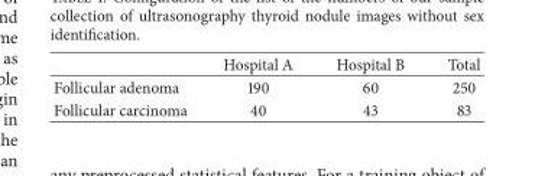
<table><thead><tr><td></td><td>Hospital A</td><td>Hospital B</td><td>Total</td></tr></thead><tbody><tr><td>Follicular adenoma</td><td>190</td><td>60</td><td>250</td></tr><tr><td>Follicular carcinoma</td><td>40</td><td>43</td><td>83</td></tr></tbody></table>